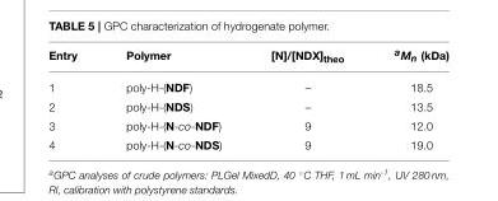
<table><thead><tr><td>Entry</td><td>Polymer</td><td>[N]/[NDX]<sub>theo</sub></td><td>aMn (kDa)</td></tr></thead><tbody><tr><td>1</td><td>poly-H-(NDF)</td><td>–</td><td>18.5</td></tr><tr><td>2</td><td>poly-H-(NDS)</td><td>–</td><td>13.5</td></tr><tr><td>3</td><td>poly-H-(N-co-NDF)</td><td>9</td><td>12.0</td></tr><tr><td>4</td><td>poly-H-(N-co-NDS)</td><td>9</td><td>19.0</td></tr></tbody></table>